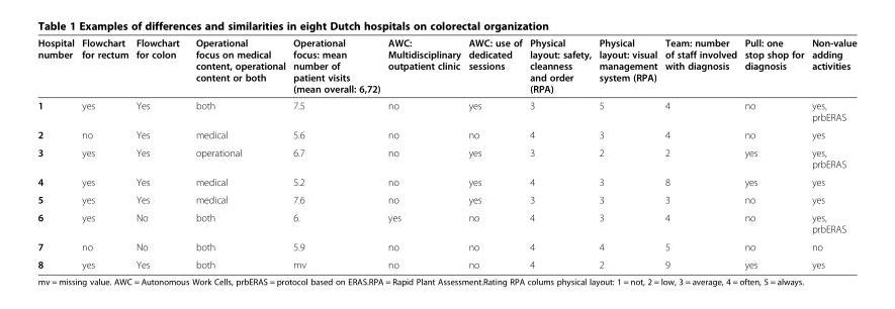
<table><thead><tr><td>Hospital number</td><td>Flowchart for rectum</td><td>Flowchart for colon</td><td>Operational focus on medical content, operational content or both</td><td>Operational focus: mean number of patient visits (mean overall: 6,72)</td><td>AWC: Multidisciplinary outpatient clinic</td><td>AWC: use of dedicated sessions</td><td>Physical layout: safety, cleanness and order (RPA)</td><td>Physical layout: visual management system (RPA)</td><td>Team: number of staff involved with diagnosis</td><td>Pull: one stop shop for diagnosis</td><td>Non-value adding activities</td></tr></thead><tbody><tr><td>1</td><td>yes</td><td>Yes</td><td>both</td><td>7.5</td><td>no</td><td>yes</td><td>3</td><td>5</td><td>4</td><td>no</td><td>yes, prbERAS</td></tr><tr><td>2</td><td>no</td><td>Yes</td><td>medical</td><td>5.6</td><td>no</td><td>no</td><td>4</td><td>3</td><td>4</td><td>no</td><td>yes</td></tr><tr><td>3</td><td>yes</td><td>Yes</td><td>operational</td><td>6.7</td><td>no</td><td>yes</td><td>3</td><td>2</td><td>2</td><td>yes</td><td>yes, prbERAS</td></tr><tr><td>4</td><td>yes</td><td>Yes</td><td>medical</td><td>5.2</td><td>no</td><td>yes</td><td>4</td><td>3</td><td>8</td><td>yes</td><td>yes</td></tr><tr><td>5</td><td>yes</td><td>Yes</td><td>medical</td><td>7.6</td><td>no</td><td>yes</td><td>3</td><td>3</td><td>3</td><td>no</td><td>yes</td></tr><tr><td>6</td><td>yes</td><td>No</td><td>both</td><td>6.</td><td>yes</td><td>no</td><td>4</td><td>3</td><td>4</td><td>no</td><td>yes, prbERAS</td></tr><tr><td>7</td><td>no</td><td>No</td><td>both</td><td>5.9</td><td>no</td><td>no</td><td>4</td><td>4</td><td>5</td><td>no</td><td>no</td></tr><tr><td>8</td><td>yes</td><td>Yes</td><td>both</td><td>mv</td><td>no</td><td>no</td><td>4</td><td>2</td><td>9</td><td>yes</td><td>yes</td></tr></tbody></table>